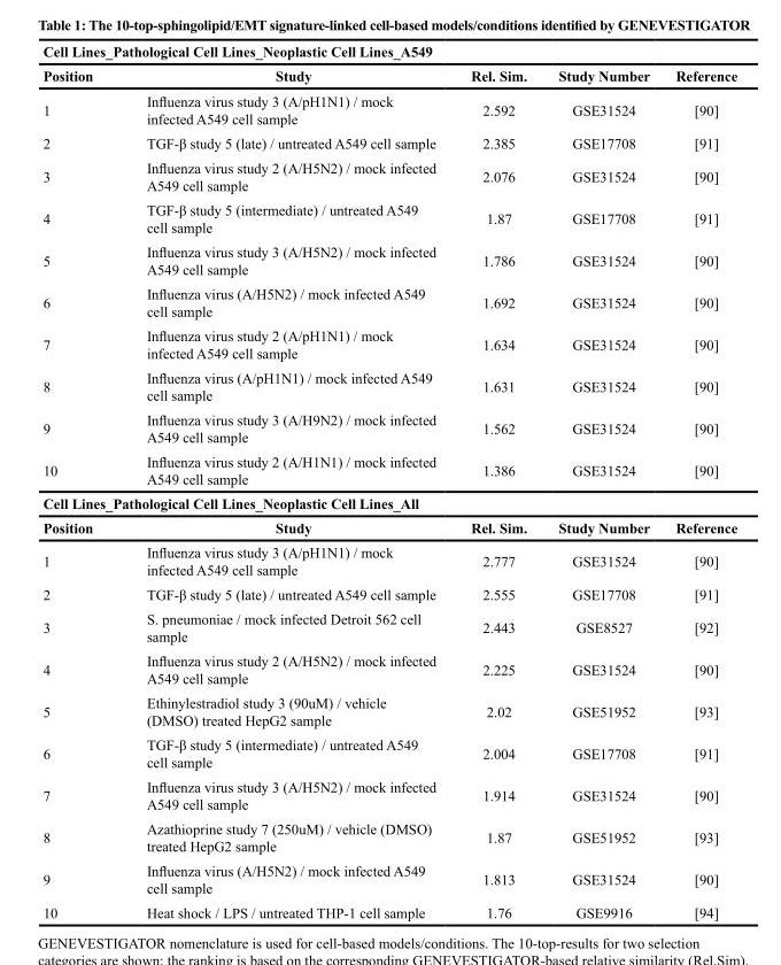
<table><thead><tr><td colspan="5">Cell Lines_Pathological Cell Lines_Neoplastic Cell Lines_A549</td></tr><tr><td>Position</td><td>Study</td><td>Rel. Sim.</td><td>Study Number</td><td>Reference</td></tr></thead><tbody><tr><td>1</td><td>Influenza virus study 3 (A/pH1N1) / mock infected A549 cell sample</td><td>2.592</td><td>GSE31524</td><td>[90]</td></tr><tr><td>2</td><td>TGF-β study 5 (late) / untreated A549 cell sample</td><td>2.385</td><td>GSE17708</td><td>[91]</td></tr><tr><td>3</td><td>Influenza virus study 2 (A/H5N2) / mock infected A549 cell sample</td><td>2.076</td><td>GSE31524</td><td>[90]</td></tr><tr><td>4</td><td>TGF-β study 5 (intermediate) / untreated A549 cell sample</td><td>1.87</td><td>GSE17708</td><td>[91]</td></tr><tr><td>5</td><td>Influenza virus study 3 (A/H5N2) / mock infected A549 cell sample</td><td>1.786</td><td>GSE31524</td><td>[90]</td></tr><tr><td>6</td><td>Influenza virus (A/H5N2) / mock infected A549 cell sample</td><td>1.692</td><td>GSE31524</td><td>[90]</td></tr><tr><td>7</td><td>Influenza virus study 2 (A/pH1N1) / mock infected A549 cell sample</td><td>1.634</td><td>GSE31524</td><td>[90]</td></tr><tr><td>8</td><td>Influenza virus (A/pH1N1) / mock infected A549 cell sample</td><td>1.631</td><td>GSE31524</td><td>[90]</td></tr><tr><td>9</td><td>Influenza virus study 3 (A/H9N2) / mock infected A549 cell sample</td><td>1.562</td><td>GSE31524</td><td>[90]</td></tr><tr><td>10</td><td>Influenza virus study 2 (A/H1N1) / mock infected A549 cell sample</td><td>1.386</td><td>GSE31524</td><td>[90]</td></tr><tr><td colspan="5">Cell Lines_Pathological Cell Lines_Neoplastic Cell Lines_All</td></tr><tr><td>Position</td><td>Study</td><td>Rel. Sim.</td><td>Study Number</td><td>Reference</td></tr><tr><td>1</td><td>Influenza virus study 3 (A/pH1N1) / mock infected A549 cell sample</td><td>2.777</td><td>GSE31524</td><td>[90]</td></tr><tr><td>2</td><td>TGF-β study 5 (late) / untreated A549 cell sample</td><td>2.555</td><td>GSE17708</td><td>[91]</td></tr><tr><td>3</td><td>S. pneumoniae / mock infected Detroit 562 cell sample</td><td>2.443</td><td>GSE8527</td><td>[92]</td></tr><tr><td>4</td><td>Influenza virus study 2 (A/H5N2) / mock infected A549 cell sample</td><td>2.225</td><td>GSE31524</td><td>[90]</td></tr><tr><td>5</td><td>Ethinylestradiol study 3 (90uM) / vehicle (DMSO) treated HepG2 sample</td><td>2.02</td><td>GSE51952</td><td>[93]</td></tr><tr><td>6</td><td>TGF-β study 5 (intermediate) / untreated A549 cell sample</td><td>2.004</td><td>GSE17708</td><td>[91]</td></tr><tr><td>7</td><td>Influenza virus study 3 (A/H5N2) / mock infected A549 cell sample</td><td>1.914</td><td>GSE31524</td><td>[90]</td></tr><tr><td>8</td><td>Azathioprine study 7 (250uM) / vehicle (DMSO) treated HepG2 sample</td><td>1.87</td><td>GSE51952</td><td>[93]</td></tr><tr><td>9</td><td>Influenza virus (A/H5N2) / mock infected A549 cell sample</td><td>1.813</td><td>GSE31524</td><td>[90]</td></tr><tr><td>10</td><td>Heat shock / LPS / untreated THP-1 cell sample</td><td>1.76</td><td>GSE9916</td><td>[94]</td></tr></tbody></table>